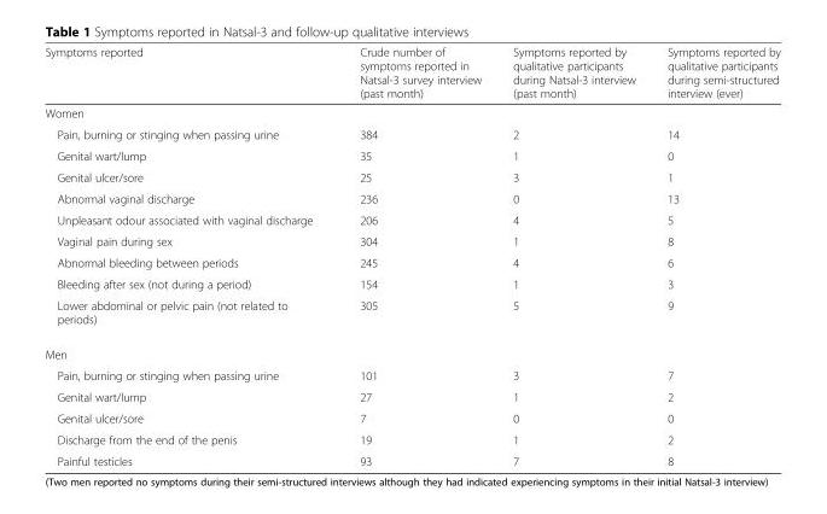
<table><thead><tr><td>Symptoms reported</td><td>Crude number of symptoms reported in Natsal-3 survey interview (past month)</td><td>Symptoms reported by qualitative participants during Natsal-3 interview (past month)</td><td>Symptoms reported by qualitative participants during semi-structured interview (ever)</td></tr></thead><tbody><tr><td colspan="4">Women</td></tr><tr><td>Pain, burning or stinging when passing urine</td><td>384</td><td>2</td><td>14</td></tr><tr><td>Genital wart/lump</td><td>35</td><td>1</td><td>0</td></tr><tr><td>Genital ulcer/sore</td><td>25</td><td>3</td><td>1</td></tr><tr><td>Abnormal vaginal discharge</td><td>236</td><td>0</td><td>13</td></tr><tr><td>Unpleasant odour associated with vaginal discharge</td><td>206</td><td>4</td><td>5</td></tr><tr><td>Vaginal pain during sex</td><td>304</td><td>1</td><td>8</td></tr><tr><td>Abnormal bleeding between periods</td><td>245</td><td>4</td><td>6</td></tr><tr><td>Bleeding after sex (not during a period)</td><td>154</td><td>1</td><td>3</td></tr><tr><td>Lower abdominal or pelvic pain (not related to periods)</td><td>305</td><td>5</td><td>9</td></tr><tr><td colspan="4">Men</td></tr><tr><td>Pain, burning or stinging when passing urine</td><td>101</td><td>3</td><td>7</td></tr><tr><td>Genital wart/lump</td><td>27</td><td>1</td><td>2</td></tr><tr><td>Genital ulcer/sore</td><td>7</td><td>0</td><td>0</td></tr><tr><td>Discharge from the end of the penis</td><td>19</td><td>1</td><td>2</td></tr><tr><td>Painful testicles</td><td>93</td><td>7</td><td>8</td></tr></tbody></table>